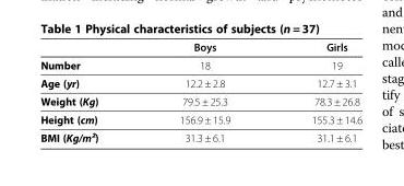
<table><thead><tr><td></td><td>Boys</td><td>Girls</td></tr></thead><tbody><tr><td>Number</td><td>18</td><td>19</td></tr><tr><td>Age (yr)</td><td>12.2 ± 2.8</td><td>12.7 ± 3.1</td></tr><tr><td>Weight (Kg)</td><td>79.5 ± 25.3</td><td>78.3 ± 26.8</td></tr><tr><td>Height (cm)</td><td>156.9 ± 15.9</td><td>155.3 ± 14.6</td></tr><tr><td>BMI (Kg/m²)</td><td>31.3 ± 6.1</td><td>31.1 ± 6.1</td></tr></tbody></table>